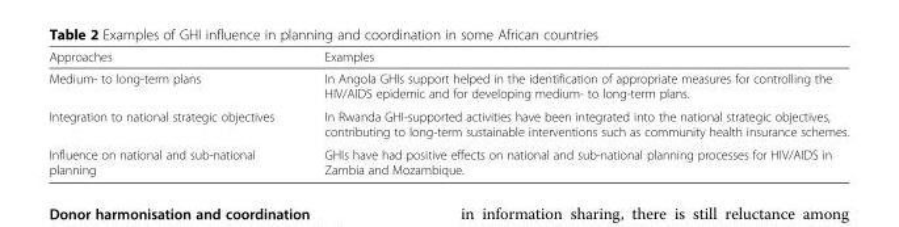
<table><thead><tr><td>Approaches</td><td>Examples</td></tr></thead><tbody><tr><td>Medium- to long-term plans</td><td>In Angola GHIs support helped in the identification of appropriate measures for controlling the HIV/AIDS epidemic and for developing medium- to long-term plans.</td></tr><tr><td>Integration to national strategic objectives</td><td>In Rwanda GHI-supported activities have been integrated into the national strategic objectives, contributing to long-term sustainable interventions such as community health insurance schemes.</td></tr><tr><td>Influence on national and sub-national planning</td><td>GHIs have had positive effects on national and sub-national planning processes for HIV/AIDS in Zambia and Mozambique.</td></tr></tbody></table>